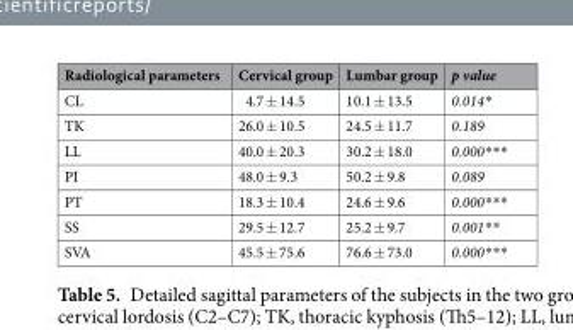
<table><thead><tr><td>Radiological parameters</td><td>Cervical group</td><td>Lumbar group</td><td>p value</td></tr></thead><tbody><tr><td>CL</td><td>4.7 ± 14.5</td><td>10.1 ± 13.5</td><td>0.014*</td></tr><tr><td>TK</td><td>26.0 ± 10.5</td><td>24.5 ± 11.7</td><td>0.189</td></tr><tr><td>LL</td><td>40.0 ± 20.3</td><td>30.2 ± 18.0</td><td>0.000***</td></tr><tr><td>PI</td><td>48.0 ± 9.3</td><td>50.2 ± 9.8</td><td>0.089</td></tr><tr><td>PT</td><td>18.3 ± 10.4</td><td>24.6 ± 9.6</td><td>0.000***</td></tr><tr><td>SS</td><td>29.5 ± 12.7</td><td>25.2 ± 9.7</td><td>0.001**</td></tr><tr><td>SVA</td><td>45.5 ± 75.6</td><td>76.6 ± 73.0</td><td>0.000***</td></tr></tbody></table>